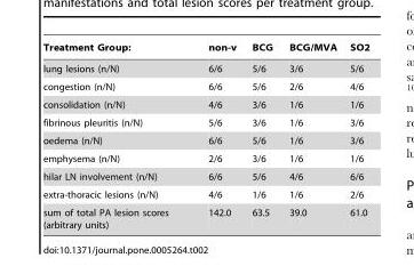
<table><thead><tr><td>Treatment Group:</td><td>non-v</td><td>BCG</td><td>BCG/MVA</td><td>SO2</td></tr></thead><tbody><tr><td>lung lesions (n/N)</td><td>6/6</td><td>5/6</td><td>3/6</td><td>5/6</td></tr><tr><td>congestion (n/N)</td><td>6/6</td><td>5/6</td><td>2/6</td><td>4/6</td></tr><tr><td>consolidation (n/N)</td><td>4/6</td><td>3/6</td><td>1/6</td><td>1/6</td></tr><tr><td>fibrinous pleuritis (n/N)</td><td>5/6</td><td>3/6</td><td>1/6</td><td>3/6</td></tr><tr><td>oedema (n/N)</td><td>6/6</td><td>5/6</td><td>1/6</td><td>3/6</td></tr><tr><td>emphysema (n/N)</td><td>2/6</td><td>3/6</td><td>1/6</td><td>1/6</td></tr><tr><td>hilar LN involvement (n/N)</td><td>6/6</td><td>5/6</td><td>4/6</td><td>6/6</td></tr><tr><td>extra-thoracic lesions (n/N)</td><td>4/6</td><td>1/6</td><td>1/6</td><td>2/6</td></tr><tr><td>sum of total PA lesion scores (arbitrary units)</td><td>142.0</td><td>63.5</td><td>39.0</td><td>61.0</td></tr></tbody></table>